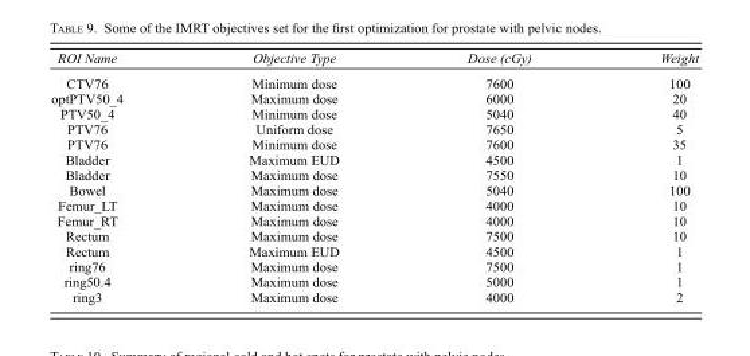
<table><thead><tr><td>ROI Name</td><td>Objective Type</td><td>Dose (cGy)</td><td>Weight</td></tr></thead><tbody><tr><td>CTV76</td><td>Minimum dose</td><td>7600</td><td>100</td></tr><tr><td>optPTV50_4</td><td>Maximum dose</td><td>6000</td><td>20</td></tr><tr><td>PTV50_4</td><td>Minimum dose</td><td>5040</td><td>40</td></tr><tr><td>PTV76</td><td>Uniform dose</td><td>7650</td><td>5</td></tr><tr><td>PTV76</td><td>Minimum dose</td><td>7600</td><td>35</td></tr><tr><td>Bladder</td><td>Maximum EUD</td><td>4500</td><td>1</td></tr><tr><td>Bladder</td><td>Maximum dose</td><td>7550</td><td>10</td></tr><tr><td>Bowel</td><td>Maximum dose</td><td>5040</td><td>100</td></tr><tr><td>Femur_LT</td><td>Maximum dose</td><td>4000</td><td>10</td></tr><tr><td>Femur_RT</td><td>Maximum dose</td><td>4000</td><td>10</td></tr><tr><td>Rectum</td><td>Maximum dose</td><td>7500</td><td>10</td></tr><tr><td>Rectum</td><td>Maximum EUD</td><td>4500</td><td>1</td></tr><tr><td>ring76</td><td>Maximum dose</td><td>7500</td><td>1</td></tr><tr><td>ring50.4</td><td>Maximum dose</td><td>5000</td><td>1</td></tr><tr><td>ring3</td><td>Maximum dose</td><td>4000</td><td>2</td></tr></tbody></table>